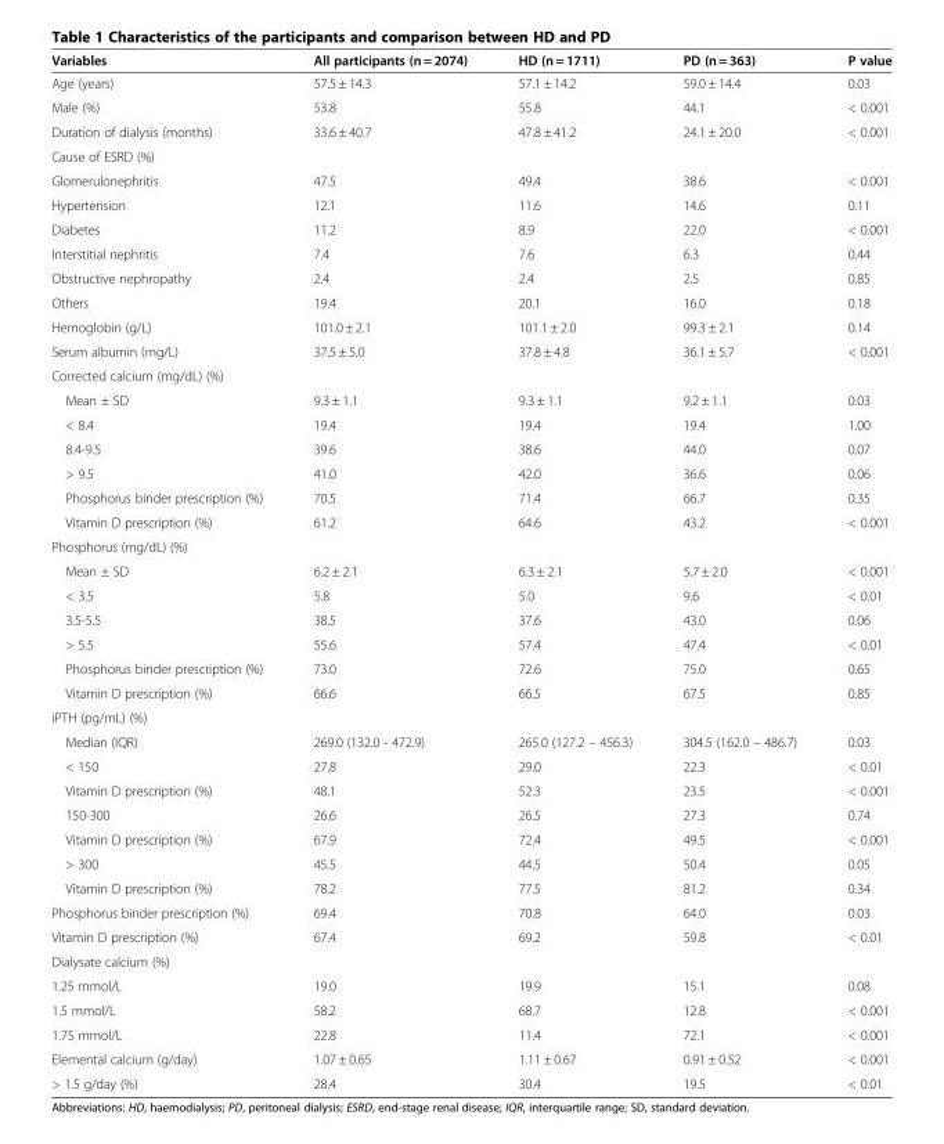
<table><thead><tr><td>Variables</td><td>All participants (n = 2074)</td><td>HD (n = 1711)</td><td>PD (n = 363)</td><td>P value</td></tr></thead><tbody><tr><td>Age (years)</td><td>57.5 ± 14.3</td><td>57.1 ± 14.2</td><td>59.0 ± 14.4</td><td>0.03</td></tr><tr><td>Male (%)</td><td>53.8</td><td>55.8</td><td>44.1</td><td>&lt; 0.001</td></tr><tr><td>Duration of dialysis (months)</td><td>33.6 ± 40.7</td><td>47.8 ± 41.2</td><td>24.1 ± 20.0</td><td>&lt; 0.001</td></tr><tr><td colspan="5">Cause of ESRD (%)</td></tr><tr><td>Glomerulonephritis</td><td>47.5</td><td>49.4</td><td>38.6</td><td>&lt; 0.001</td></tr><tr><td>Hypertension</td><td>12.1</td><td>11.6</td><td>14.6</td><td>0.11</td></tr><tr><td>Diabetes</td><td>11.2</td><td>8.9</td><td>22.0</td><td>&lt; 0.001</td></tr><tr><td>Interstitial nephritis</td><td>7.4</td><td>7.6</td><td>6.3</td><td>0.44</td></tr><tr><td>Obstructive nephropathy</td><td>2.4</td><td>2.4</td><td>2.5</td><td>0.85</td></tr><tr><td>Others</td><td>19.4</td><td>20.1</td><td>16.0</td><td>0.18</td></tr><tr><td>Hemoglobin (g/L)</td><td>101.0 ± 2.1</td><td>101.1 ± 2.0</td><td>99.3 ± 2.1</td><td>0.14</td></tr><tr><td>Serum albumin (mg/L)</td><td>37.5 ± 5.0</td><td>37.8 ± 4.8</td><td>36.1 ± 5.7</td><td>&lt; 0.001</td></tr><tr><td colspan="5">Corrected calcium (mg/dL) (%)</td></tr><tr><td>Mean ± SD</td><td>9.3 ± 1.1</td><td>9.3 ± 1.1</td><td>9.2 ± 1.1</td><td>0.03</td></tr><tr><td>&lt; 8.4</td><td>19.4</td><td>19.4</td><td>19.4</td><td>1.00</td></tr><tr><td>8.4-9.5</td><td>39.6</td><td>38.6</td><td>44.0</td><td>0.07</td></tr><tr><td>&gt; 9.5</td><td>41.0</td><td>42.0</td><td>36.6</td><td>0.06</td></tr><tr><td>Phosphorus binder prescription (%)</td><td>70.5</td><td>71.4</td><td>66.7</td><td>0.35</td></tr><tr><td>Vitamin D prescription (%)</td><td>61.2</td><td>64.6</td><td>43.2</td><td>&lt; 0.001</td></tr><tr><td colspan="5">Phosphorus (mg/dL) (%)</td></tr><tr><td>Mean ± SD</td><td>6.2 ± 2.1</td><td>6.3 ± 2.1</td><td>5.7 ± 2.0</td><td>&lt; 0.001</td></tr><tr><td>&lt; 3.5</td><td>5.8</td><td>5.0</td><td>9.6</td><td>&lt; 0.01</td></tr><tr><td>3.5-5.5</td><td>38.5</td><td>37.6</td><td>43.0</td><td>0.06</td></tr><tr><td>&gt; 5.5</td><td>55.6</td><td>57.4</td><td>47.4</td><td>&lt; 0.01</td></tr><tr><td>Phosphorus binder prescription (%)</td><td>73.0</td><td>72.6</td><td>75.0</td><td>0.65</td></tr><tr><td>Vitamin D prescription (%)</td><td>66.6</td><td>66.5</td><td>67.5</td><td>0.85</td></tr><tr><td colspan="5">iPTH (pg/mL) (%)</td></tr><tr><td>Median (IQR)</td><td>269.0 (132.0 - 472.9)</td><td>265.0 (127.2 – 456.3)</td><td>304.5 (162.0 – 486.7)</td><td>0.03</td></tr><tr><td>&lt; 150</td><td>27.8</td><td>29.0</td><td>22.3</td><td>&lt; 0.01</td></tr><tr><td>Vitamin D prescription (%)</td><td>48.1</td><td>52.3</td><td>23.5</td><td>&lt; 0.001</td></tr><tr><td>150-300</td><td>26.6</td><td>26.5</td><td>27.3</td><td>0.74</td></tr><tr><td>Vitamin D prescription (%)</td><td>67.9</td><td>72.4</td><td>49.5</td><td>&lt; 0.001</td></tr><tr><td>&gt; 300</td><td>45.5</td><td>44.5</td><td>50.4</td><td>0.05</td></tr><tr><td>Vitamin D prescription (%)</td><td>78.2</td><td>77.5</td><td>81.2</td><td>0.34</td></tr><tr><td>Phosphorus binder prescription (%)</td><td>69.4</td><td>70.8</td><td>64.0</td><td>0.03</td></tr><tr><td>Vitamin D prescription (%)</td><td>67.4</td><td>69.2</td><td>59.8</td><td>&lt; 0.01</td></tr><tr><td colspan="5">Dialysate calcium (%)</td></tr><tr><td>1.25 mmol/L</td><td>19.0</td><td>19.9</td><td>15.1</td><td>0.08</td></tr><tr><td>1.5 mmol/L</td><td>58.2</td><td>68.7</td><td>12.8</td><td>&lt; 0.001</td></tr><tr><td>1.75 mmol/L</td><td>22.8</td><td>11.4</td><td>72.1</td><td>&lt; 0.001</td></tr><tr><td>Elemental calcium (g/day)</td><td>1.07 ± 0.65</td><td>1.11 ± 0.67</td><td>0.91 ± 0.52</td><td>&lt; 0.001</td></tr><tr><td>&gt; 1.5 g/day (%)</td><td>28.4</td><td>30.4</td><td>19.5</td><td>&lt; 0.01</td></tr></tbody></table>